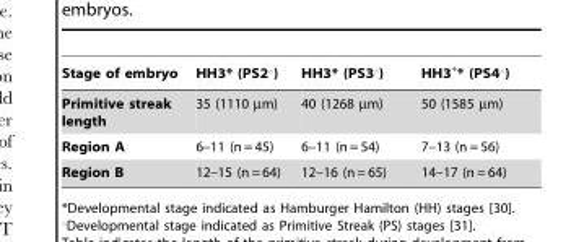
<table><thead><tr><td>Stage of embryo</td><td>HH3* (PS2‘)</td><td>HH3* (PS3‘)</td><td>HH3+* (PS4‘)</td></tr></thead><tbody><tr><td>Primitive streak length</td><td>35 (1110 µm)</td><td>40 (1268 µm)</td><td>50 (1585 µm)</td></tr><tr><td>Region A</td><td>6–11 (n = 45)</td><td>6–11 (n = 54)</td><td>7–13 (n = 56)</td></tr><tr><td>Region B</td><td>12–15 (n = 64)</td><td>12–16 (n = 65)</td><td>14–17 (n = 64)</td></tr></tbody></table>